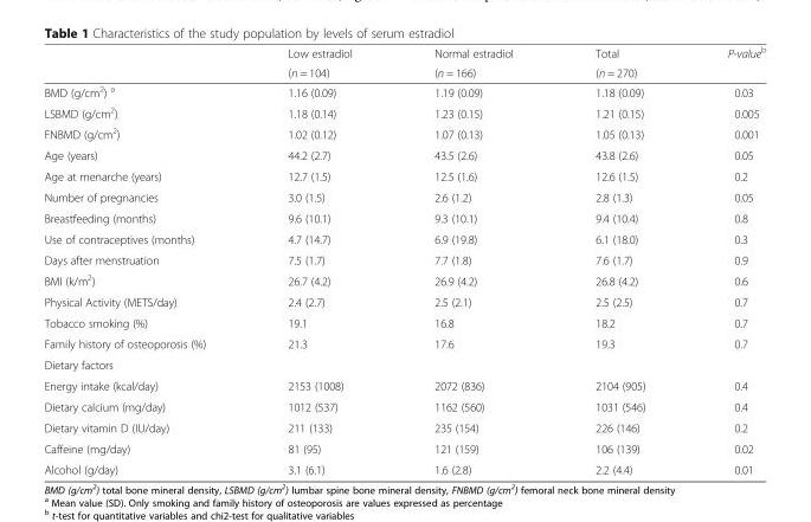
<table><thead><tr><td rowspan="2"></td><td rowspan="2">Low estradiol (n = 104)</td><td rowspan="2">Normal estradiol (n = 166)</td><td rowspan="2">Total (n = 270)</td><td rowspan="2">P-value<sup>b</sup></td></tr><tr></tr></thead><tbody><tr><td>BMD (g/cm<sup>2</sup>) <sup>a</sup></td><td>1.16 (0.09)</td><td>1.19 (0.09)</td><td>1.18 (0.09)</td><td>0.03</td></tr><tr><td>LSBMD (g/cm<sup>2</sup>)</td><td>1.18 (0.14)</td><td>1.23 (0.15)</td><td>1.21 (0.15)</td><td>0.005</td></tr><tr><td>FNBMD (g/cm<sup>2</sup>)</td><td>1.02 (0.12)</td><td>1.07 (0.13)</td><td>1.05 (0.13)</td><td>0.001</td></tr><tr><td>Age (years)</td><td>44.2 (2.7)</td><td>43.5 (2.6)</td><td>43.8 (2.6)</td><td>0.05</td></tr><tr><td>Age at menarche (years)</td><td>12.7 (1.5)</td><td>12.5 (1.6)</td><td>12.6 (1.5)</td><td>0.2</td></tr><tr><td>Number of pregnancies</td><td>3.0 (1.5)</td><td>2.6 (1.2)</td><td>2.8 (1.3)</td><td>0.05</td></tr><tr><td>Breastfeeding (months)</td><td>9.6 (10.1)</td><td>9.3 (10.1)</td><td>9.4 (10.4)</td><td>0.8</td></tr><tr><td>Use of contraceptives (months)</td><td>4.7 (14.7)</td><td>6.9 (19.8)</td><td>6.1 (18.0)</td><td>0.3</td></tr><tr><td>Days after menstruation</td><td>7.5 (1.7)</td><td>7.7 (1.8)</td><td>7.6 (1.7)</td><td>0.9</td></tr><tr><td>BMI (k/m<sup>2</sup>)</td><td>26.7 (4.2)</td><td>26.9 (4.2)</td><td>26.8 (4.2)</td><td>0.6</td></tr><tr><td>Physical Activity (METS/day)</td><td>2.4 (2.7)</td><td>2.5 (2.1)</td><td>2.5 (2.5)</td><td>0.7</td></tr><tr><td>Tobacco smoking (%)</td><td>19.1</td><td>16.8</td><td>18.2</td><td>0.7</td></tr><tr><td>Family history of osteoporosis (%)</td><td>21.3</td><td>17.6</td><td>19.3</td><td>0.7</td></tr><tr><td colspan="5">Dietary factors</td></tr><tr><td>Energy intake (kcal/day)</td><td>2153 (1008)</td><td>2072 (836)</td><td>2104 (905)</td><td>0.4</td></tr><tr><td>Dietary calcium (mg/day)</td><td>1012 (537)</td><td>1162 (560)</td><td>1031 (546)</td><td>0.4</td></tr><tr><td>Dietary vitamin D (IU/day)</td><td>211 (133)</td><td>235 (154)</td><td>226 (146)</td><td>0.2</td></tr><tr><td>Caffeine (mg/day)</td><td>81 (95)</td><td>121 (159)</td><td>106 (139)</td><td>0.02</td></tr><tr><td>Alcohol (g/day)</td><td>3.1 (6.1)</td><td>1.6 (2.8)</td><td>2.2 (4.4)</td><td>0.01</td></tr></tbody></table>